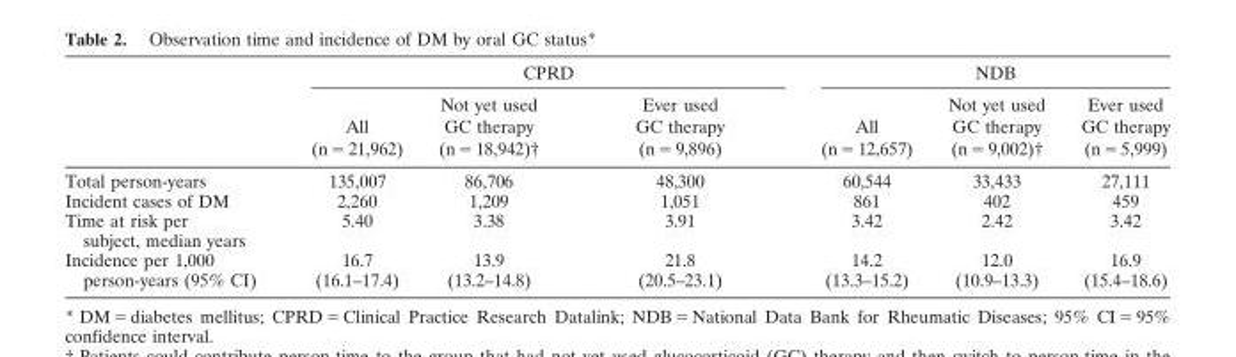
<table><thead><tr><td rowspan="2"></td><td colspan="3">CPRD</td><td colspan="3">NDB</td></tr><tr><td>All (n = 21,962)</td><td>Not yet used GC therapy (n 5 18,942)†</td><td>Ever used GC therapy (n = 9,896)</td><td>All (n = 12,657)</td><td>Not yet used GC therapy (n = 9,002)†</td><td>Ever used GC therapy (n = 5,999)</td></tr></thead><tbody><tr><td>Total person-years</td><td>135,007</td><td>86,706</td><td>48,300</td><td>60,544</td><td>33,433</td><td>27,111</td></tr><tr><td>Incident cases of DM</td><td>2,260</td><td>1,209</td><td>1,051</td><td>861</td><td>402</td><td>459</td></tr><tr><td>Time at risk per subject, median years</td><td>5.40</td><td>3.38</td><td>3.91</td><td>3.42</td><td>2.42</td><td>3.42</td></tr><tr><td>Incidence per 1,000 person-years (95% CI)</td><td>16.7 (16.1–17.4)</td><td>13.9 (13.2–14.8)</td><td>21.8 (20.5–23.1)</td><td>14.2 (13.3–15.2)</td><td>12.0 (10.9–13.3)</td><td>16.9 (15.4–18.6)</td></tr></tbody></table>